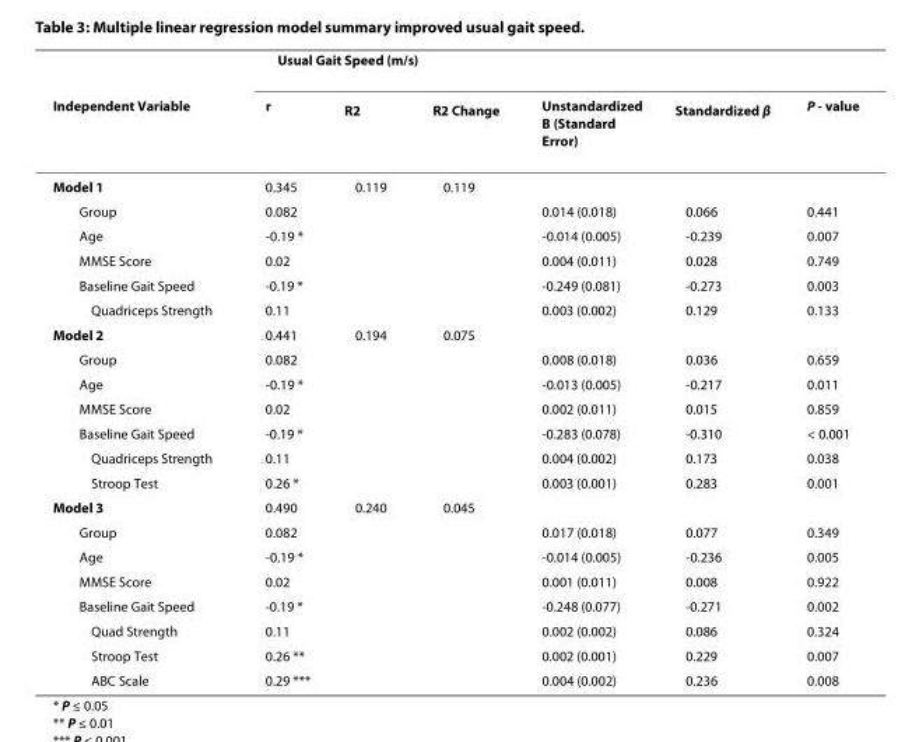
<table><thead><tr><td rowspan="2">Independent Variable</td><td colspan="6">Usual Gait Speed (m/s)</td></tr><tr><td>r</td><td>R<sup>2</sup></td><td>R<sup>2</sup> Change</td><td>Unstandardized B (Standard Error)</td><td>Standardized β</td><td>P - value</td></tr></thead><tbody><tr><td>Model 1</td><td>0.345</td><td>0.119</td><td>0.119</td><td></td><td></td><td></td></tr><tr><td>Group</td><td>0.082</td><td></td><td></td><td>0.014 (0.018)</td><td>0.066</td><td>0.441</td></tr><tr><td>Age</td><td>-0.19 *</td><td></td><td></td><td>-0.014 (0.005)</td><td>-0.239</td><td>0.007</td></tr><tr><td>MMSE Score</td><td>0.02</td><td></td><td></td><td>0.004 (0.011)</td><td>0.028</td><td>0.749</td></tr><tr><td>Baseline Gait Speed</td><td>-0.19 *</td><td></td><td></td><td>-0.249 (0.081)</td><td>-0.273</td><td>0.003</td></tr><tr><td>Quadriceps Strength</td><td>0.11</td><td></td><td></td><td>0.003 (0.002)</td><td>0.129</td><td>0.133</td></tr><tr><td>Model 2</td><td>0.441</td><td>0.194</td><td>0.075</td><td></td><td></td><td></td></tr><tr><td>Group</td><td>0.082</td><td></td><td></td><td>0.008 (0.018)</td><td>0.036</td><td>0.659</td></tr><tr><td>Age</td><td>-0.19 *</td><td></td><td></td><td>-0.013 (0.005)</td><td>-0.217</td><td>0.011</td></tr><tr><td>MMSE Score</td><td>0.02</td><td></td><td></td><td>0.002 (0.011)</td><td>0.015</td><td>0.859</td></tr><tr><td>Baseline Gait Speed</td><td>-0.19 *</td><td></td><td></td><td>-0.283 (0.078)</td><td>-0.310</td><td>&lt; 0.001</td></tr><tr><td>Quadriceps Strength</td><td>0.11</td><td></td><td></td><td>0.004 (0.002)</td><td>0.173</td><td>0.038</td></tr><tr><td>Stroop Test</td><td>0.26 *</td><td></td><td></td><td>0.003 (0.001)</td><td>0.283</td><td>0.001</td></tr><tr><td>Model 3</td><td>0.490</td><td>0.240</td><td>0.045</td><td></td><td></td><td></td></tr><tr><td>Group</td><td>0.082</td><td></td><td></td><td>0.017 (0.018)</td><td>0.077</td><td>0.349</td></tr><tr><td>Age</td><td>-0.19 *</td><td></td><td></td><td>-0.014 (0.005)</td><td>-0.236</td><td>0.005</td></tr><tr><td>MMSE Score</td><td>0.02</td><td></td><td></td><td>0.001 (0.011)</td><td>0.008</td><td>0.922</td></tr><tr><td>Baseline Gait Speed</td><td>-0.19 *</td><td></td><td></td><td>-0.248 (0.077)</td><td>-0.271</td><td>0.002</td></tr><tr><td>Quad Strength</td><td>0.11</td><td></td><td></td><td>0.002 (0.002)</td><td>0.086</td><td>0.324</td></tr><tr><td>Stroop Test</td><td>0.26 **</td><td></td><td></td><td>0.002 (0.001)</td><td>0.229</td><td>0.007</td></tr><tr><td>ABC Scale</td><td>0.29 ***</td><td></td><td></td><td>0.004 (0.002)</td><td>0.236</td><td>0.008</td></tr></tbody></table>